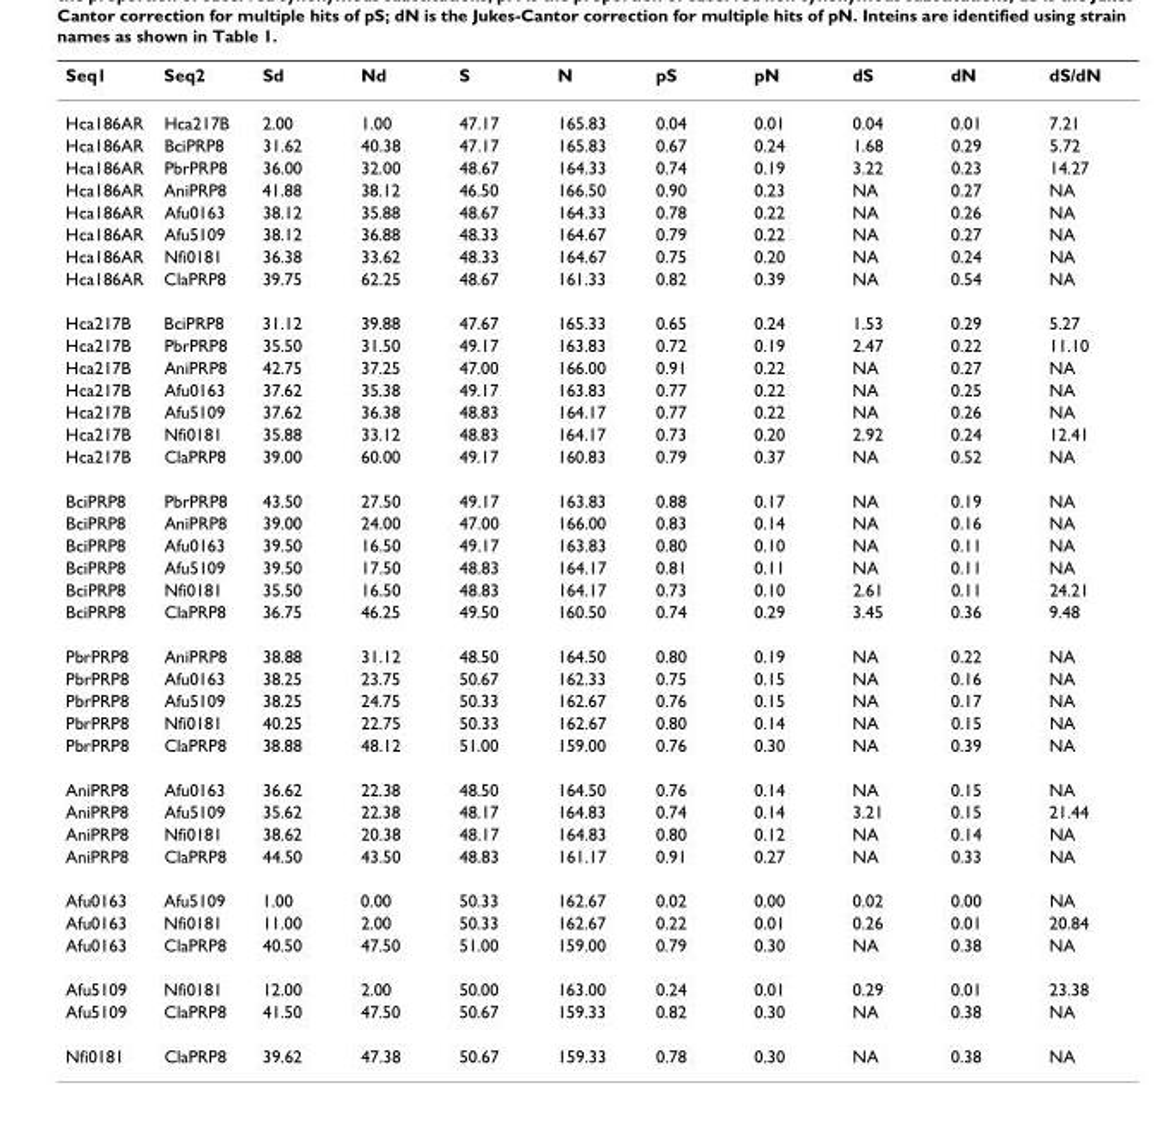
<table><thead><tr><td>Seq1</td><td>Seq2</td><td>Sd</td><td>Nd</td><td>S</td><td>N</td><td>pS</td><td>pN</td><td>dS</td><td>dN</td><td>dS/dN</td></tr></thead><tbody><tr><td>Hca186AR</td><td>Hca217B</td><td>2.00</td><td>1.00</td><td>47.17</td><td>165.83</td><td>0.04</td><td>0.01</td><td>0.04</td><td>0.01</td><td>7.21</td></tr><tr><td>Hca186AR</td><td>BciPRP8</td><td>31.62</td><td>40.38</td><td>47.17</td><td>165.83</td><td>0.67</td><td>0.24</td><td>1.68</td><td>0.29</td><td>5.72</td></tr><tr><td>Hca186AR</td><td>PbrPRP8</td><td>36.00</td><td>32.00</td><td>48.67</td><td>164.33</td><td>0.74</td><td>0.19</td><td>3.22</td><td>0.23</td><td>14.27</td></tr><tr><td>Hca186AR</td><td>AniPRP8</td><td>41.88</td><td>38.12</td><td>46.50</td><td>166.50</td><td>0.90</td><td>0.23</td><td>NA</td><td>0.27</td><td>NA</td></tr><tr><td>Hca186AR</td><td>Afu0163</td><td>38.12</td><td>35.88</td><td>48.67</td><td>164.33</td><td>0.78</td><td>0.22</td><td>NA</td><td>0.26</td><td>NA</td></tr><tr><td>Hca186AR</td><td>Afu5109</td><td>38.12</td><td>36.88</td><td>48.33</td><td>164.67</td><td>0.79</td><td>0.22</td><td>NA</td><td>0.27</td><td>NA</td></tr><tr><td>Hca186AR</td><td>Nfi0181</td><td>36.38</td><td>33.62</td><td>48.33</td><td>164.67</td><td>0.75</td><td>0.20</td><td>NA</td><td>0.24</td><td>NA</td></tr><tr><td>Hca186AR</td><td>ClaPRP8</td><td>39.75</td><td>62.25</td><td>48.67</td><td>161.33</td><td>0.82</td><td>0.39</td><td>NA</td><td>0.54</td><td>NA</td></tr><tr><td>Hca217B</td><td>BciPRP8</td><td>31.12</td><td>39.88</td><td>47.67</td><td>165.33</td><td>0.65</td><td>0.24</td><td>1.53</td><td>0.29</td><td>5.27</td></tr><tr><td>Hca217B</td><td>PbrPRP8</td><td>35.50</td><td>31.50</td><td>49.17</td><td>163.83</td><td>0.72</td><td>0.19</td><td>2.47</td><td>0.22</td><td>11.10</td></tr><tr><td>Hca217B</td><td>AniPRP8</td><td>42.75</td><td>37.25</td><td>47.00</td><td>166.00</td><td>0.91</td><td>0.22</td><td>NA</td><td>0.27</td><td>NA</td></tr><tr><td>Hca217B</td><td>Afu0163</td><td>37.62</td><td>35.38</td><td>49.17</td><td>163.83</td><td>0.77</td><td>0.22</td><td>NA</td><td>0.25</td><td>NA</td></tr><tr><td>Hca217B</td><td>Afu5109</td><td>37.62</td><td>36.38</td><td>48.83</td><td>164.17</td><td>0.77</td><td>0.22</td><td>NA</td><td>0.26</td><td>NA</td></tr><tr><td>Hca217B</td><td>Nfi0181</td><td>35.88</td><td>33.12</td><td>48.83</td><td>164.17</td><td>0.73</td><td>0.20</td><td>2.92</td><td>0.24</td><td>12.41</td></tr><tr><td>Hca217B</td><td>ClaPRP8</td><td>39.00</td><td>60.00</td><td>49.17</td><td>160.83</td><td>0.79</td><td>0.37</td><td>NA</td><td>0.52</td><td>NA</td></tr><tr><td>BciPRP8</td><td>PbrPRP8</td><td>43.50</td><td>27.50</td><td>49.17</td><td>163.83</td><td>0.88</td><td>0.17</td><td>NA</td><td>0.19</td><td>NA</td></tr><tr><td>BciPRP8</td><td>AniPRP8</td><td>39.00</td><td>24.00</td><td>47.00</td><td>166.00</td><td>0.83</td><td>0.14</td><td>NA</td><td>0.16</td><td>NA</td></tr><tr><td>BciPRP8</td><td>Afu0163</td><td>39.50</td><td>16.50</td><td>49.17</td><td>163.83</td><td>0.80</td><td>0.10</td><td>NA</td><td>0.11</td><td>NA</td></tr><tr><td>BciPRP8</td><td>Afu5109</td><td>39.50</td><td>17.50</td><td>48.83</td><td>164.17</td><td>0.81</td><td>0.11</td><td>NA</td><td>0.11</td><td>NA</td></tr><tr><td>BciPRP8</td><td>Nfi0181</td><td>35.50</td><td>16.50</td><td>48.83</td><td>164.17</td><td>0.73</td><td>0.10</td><td>2.61</td><td>0.11</td><td>24.21</td></tr><tr><td>BciPRP8</td><td>ClaPRP8</td><td>36.75</td><td>46.25</td><td>49.50</td><td>160.50</td><td>0.74</td><td>0.29</td><td>3.45</td><td>0.36</td><td>9.48</td></tr><tr><td>PbrPRP8</td><td>AniPRP8</td><td>38.88</td><td>31.12</td><td>48.50</td><td>164.50</td><td>0.80</td><td>0.19</td><td>NA</td><td>0.22</td><td>NA</td></tr><tr><td>PbrPRP8</td><td>Afu0163</td><td>38.25</td><td>23.75</td><td>50.67</td><td>162.33</td><td>0.75</td><td>0.15</td><td>NA</td><td>0.16</td><td>NA</td></tr><tr><td>PbrPRP8</td><td>Afu5109</td><td>38.25</td><td>24.75</td><td>50.33</td><td>162.67</td><td>0.76</td><td>0.15</td><td>NA</td><td>0.17</td><td>NA</td></tr><tr><td>PbrPRP8</td><td>Nfi0181</td><td>40.25</td><td>22.75</td><td>50.33</td><td>162.67</td><td>0.80</td><td>0.14</td><td>NA</td><td>0.15</td><td>NA</td></tr><tr><td>PbrPRP8</td><td>ClaPRP8</td><td>38.88</td><td>48.12</td><td>51.00</td><td>159.00</td><td>0.76</td><td>0.30</td><td>NA</td><td>0.39</td><td>NA</td></tr><tr><td>AniPRP8</td><td>Afu0163</td><td>36.62</td><td>22.38</td><td>48.50</td><td>164.50</td><td>0.76</td><td>0.14</td><td>NA</td><td>0.15</td><td>NA</td></tr><tr><td>AniPRP8</td><td>Afu5109</td><td>35.62</td><td>22.38</td><td>48.17</td><td>164.83</td><td>0.74</td><td>0.14</td><td>3.21</td><td>0.15</td><td>21.44</td></tr><tr><td>AniPRP8</td><td>Nfi0181</td><td>38.62</td><td>20.38</td><td>48.17</td><td>164.83</td><td>0.80</td><td>0.12</td><td>NA</td><td>0.14</td><td>NA</td></tr><tr><td>AniPRP8</td><td>ClaPRP8</td><td>44.50</td><td>43.50</td><td>48.83</td><td>161.17</td><td>0.91</td><td>0.27</td><td>NA</td><td>0.33</td><td>NA</td></tr><tr><td>Afu0163</td><td>Afu5109</td><td>1.00</td><td>0.00</td><td>50.33</td><td>162.67</td><td>0.02</td><td>0.00</td><td>0.02</td><td>0.00</td><td>NA</td></tr><tr><td>Afu0163</td><td>Nfi0181</td><td>11.00</td><td>2.00</td><td>50.33</td><td>162.67</td><td>0.22</td><td>0.01</td><td>0.26</td><td>0.01</td><td>20.84</td></tr><tr><td>Afu0163</td><td>ClaPRP8</td><td>40.50</td><td>47.50</td><td>51.00</td><td>159.00</td><td>0.79</td><td>0.30</td><td>NA</td><td>0.38</td><td>NA</td></tr><tr><td>Afu5109</td><td>Nfi0181</td><td>12.00</td><td>2.00</td><td>50.00</td><td>163.00</td><td>0.24</td><td>0.01</td><td>0.29</td><td>0.01</td><td>23.38</td></tr><tr><td>Afu5109</td><td>ClaPRP8</td><td>41.50</td><td>47.50</td><td>50.67</td><td>159.33</td><td>0.82</td><td>0.30</td><td>NA</td><td>0.38</td><td>NA</td></tr><tr><td>Nfi0181</td><td>ClaPRP8</td><td>39.62</td><td>47.38</td><td>50.67</td><td>159.33</td><td>0.78</td><td>0.30</td><td>NA</td><td>0.38</td><td>NA</td></tr></tbody></table>